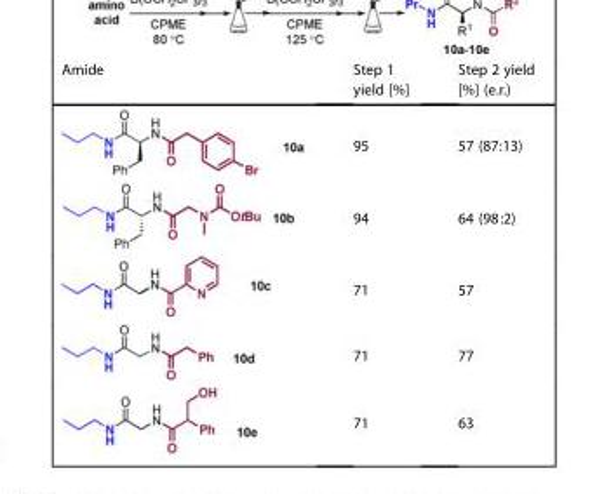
<table><thead><tr><td>Amide</td><td>Step 1 yield [%]</td><td>Step 2 yield [%] (e.r.)</td></tr></thead><tbody><tr><td></td><td>95</td><td>57 (87:13)</td></tr><tr><td></td><td>94</td><td>64 (98:2)</td></tr><tr><td></td><td>71</td><td>57</td></tr><tr><td></td><td>71</td><td>77</td></tr><tr><td></td><td>71</td><td>63</td></tr></tbody></table>